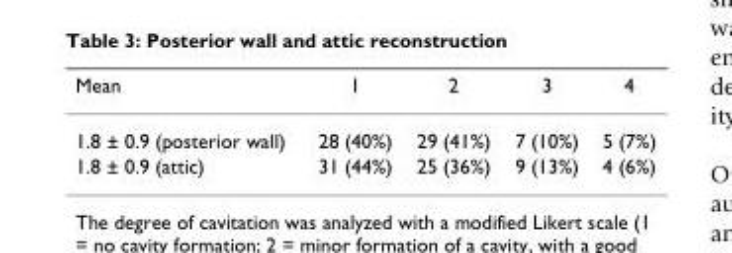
<table><thead><tr><td>Mean</td><td>1</td><td>2</td><td>3</td><td>4</td></tr></thead><tbody><tr><td>1.8 ± 0.9 (posterior wall)</td><td>28 (40%)</td><td>29 (41%)</td><td>7 (10%)</td><td>5 (7%)</td></tr><tr><td>1.8 ± 0.9 (attic)</td><td>31 (44%)</td><td>25 (36%)</td><td>9 (13%)</td><td>4 (6%)</td></tr></tbody></table>